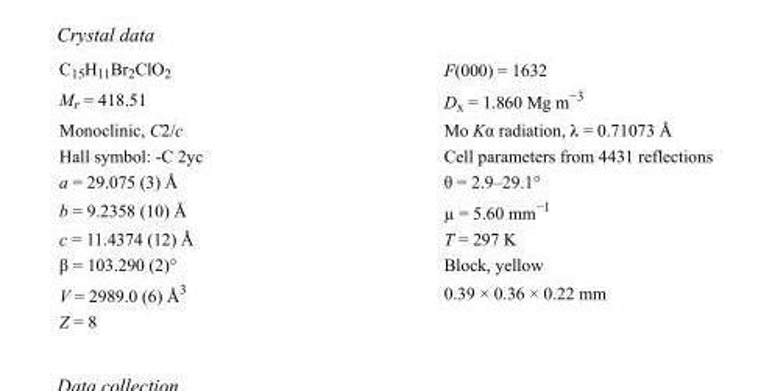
<table><tbody><tr><td>C<sub>15</sub>H<sub>11</sub>Br<sub>2</sub>ClO<sub>2</sub></td><td>F(000) = 1632</td></tr><tr><td>M<sub>r</sub> = 418.51</td><td>D<sub>x</sub> = 1.860 Mg m<sup>−3</sup></td></tr><tr><td>Monoclinic, C2/c</td><td>Mo Kα radiation, λ = 0.71073 Å</td></tr><tr><td>Hall symbol: -C 2yc</td><td>Cell parameters from 4431 reflections</td></tr><tr><td>a = 29.075 (3) Å</td><td>θ = 2.9–29.1°</td></tr><tr><td>b = 9.2358 (10) Å</td><td>µ = 5.60 mm<sup>−1</sup></td></tr><tr><td>c = 11.4374 (12) Å</td><td>T = 297 K</td></tr><tr><td>β = 103.290 (2)°</td><td>Block, yellow</td></tr><tr><td>V = 2989.0 (6) Å<sup>3</sup></td><td>0.39 × 0.36 × 0.22 mm</td></tr><tr><td>Z = 8</td><td></td></tr></tbody></table>